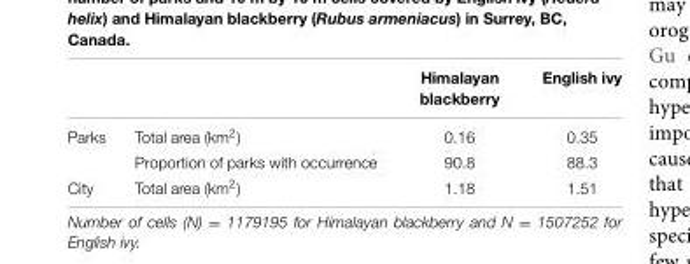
<table><thead><tr><td></td><td></td><td>Himalayan blackberry</td><td>English ivy</td></tr></thead><tbody><tr><td rowspan="2">Parks</td><td>Total area (km<sup>2</sup>)</td><td>0.16</td><td>0.35</td></tr><tr><td>Proportion of parks with occurrence</td><td>90.8</td><td>88.3</td></tr><tr><td>City</td><td>Total area (km<sup>2</sup>)</td><td>1.18</td><td>1.51</td></tr></tbody></table>